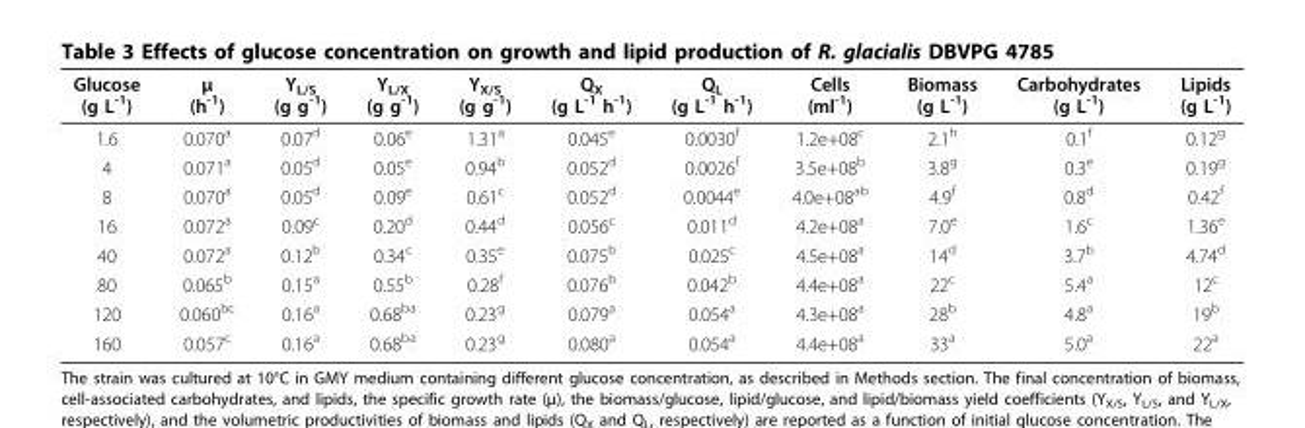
<table><thead><tr><td>Glucose (g L<sup>-1</sup>)</td><td>μ (h<sup>-1</sup>)</td><td>Y<sub>L/S</sub> (g g<sup>-1</sup>)</td><td>Y<sub>L/X</sub> (g g<sup>-1</sup>)</td><td>Y<sub>X/S</sub> (g g<sup>-1</sup>)</td><td>Q<sub>X</sub> (g L<sup>-1</sup> h<sup>-1</sup>)</td><td>Q<sub>L</sub> (g L<sup>-1</sup> h<sup>-1</sup>)</td><td>Cells (ml<sup>-1</sup>)</td><td>Biomass (g L<sup>-1</sup>)</td><td>Carbohydrates (g L<sup>-1</sup>)</td><td>Lipids (g L<sup>-1</sup>)</td></tr></thead><tbody><tr><td>1.6</td><td>0.070<sup>a</sup></td><td>0.07<sup>d</sup></td><td>0.06<sup>e</sup></td><td>1.31<sup>a</sup></td><td>0.045<sup>e</sup></td><td>0.0030<sup>f</sup></td><td>1.2e+08<sup>c</sup></td><td>2.1<sup>h</sup></td><td>0.1<sup>f</sup></td><td>0.12<sup>g</sup></td></tr><tr><td>4</td><td>0.071<sup>a</sup></td><td>0.05<sup>d</sup></td><td>0.05<sup>e</sup></td><td>0.94<sup>b</sup></td><td>0.052<sup>d</sup></td><td>0.0026<sup>f</sup></td><td>3.5e+08<sup>b</sup></td><td>3.8<sup>g</sup></td><td>0.3<sup>e</sup></td><td>0.19<sup>g</sup></td></tr><tr><td>8</td><td>0.070<sup>a</sup></td><td>0.05<sup>d</sup></td><td>0.09<sup>e</sup></td><td>0.61<sup>c</sup></td><td>0.052<sup>d</sup></td><td>0.0044<sup>e</sup></td><td>4.0e+08<sup>ab</sup></td><td>4.9<sup>f</sup></td><td>0.8<sup>d</sup></td><td>0.42<sup>f</sup></td></tr><tr><td>16</td><td>0.072<sup>a</sup></td><td>0.09<sup>c</sup></td><td>0.20<sup>d</sup></td><td>0.44<sup>d</sup></td><td>0.056<sup>c</sup></td><td>0.011<sup>d</sup></td><td>4.2e+08<sup>a</sup></td><td>7.0<sup>e</sup></td><td>1.6<sup>c</sup></td><td>1.36<sup>e</sup></td></tr><tr><td>40</td><td>0.072<sup>a</sup></td><td>0.12<sup>b</sup></td><td>0.34<sup>c</sup></td><td>0.35<sup>e</sup></td><td>0.075<sup>b</sup></td><td>0.025<sup>c</sup></td><td>4.5e+08<sup>a</sup></td><td>14<sup>d</sup></td><td>3.7<sup>b</sup></td><td>4.74<sup>d</sup></td></tr><tr><td>80</td><td>0.065<sup>b</sup></td><td>0.15<sup>a</sup></td><td>0.55<sup>b</sup></td><td>0.28<sup>f</sup></td><td>0.076<sup>b</sup></td><td>0.042<sup>b</sup></td><td>4.4e+08<sup>a</sup></td><td>22<sup>c</sup></td><td>5.4<sup>a</sup></td><td>12<sup>c</sup></td></tr><tr><td>120</td><td>0.060<sup>bc</sup></td><td>0.16<sup>a</sup></td><td>0.68<sup>ba</sup></td><td>0.23<sup>g</sup></td><td>0.079<sup>a</sup></td><td>0.054<sup>a</sup></td><td>4.3e+08<sup>a</sup></td><td>28<sup>b</sup></td><td>4.8<sup>a</sup></td><td>19<sup>b</sup></td></tr><tr><td>160</td><td>0.057<sup>c</sup></td><td>0.16<sup>a</sup></td><td>0.68<sup>ba</sup></td><td>0.23<sup>g</sup></td><td>0.080<sup>a</sup></td><td>0.054<sup>a</sup></td><td>4.4e+08<sup>a</sup></td><td>33<sup>a</sup></td><td>5.0<sup>a</sup></td><td>22<sup>a</sup></td></tr></tbody></table>